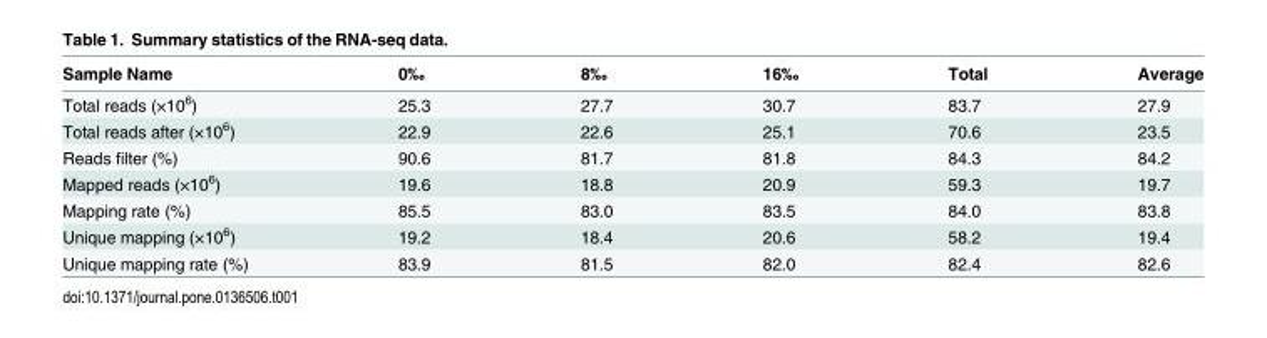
<table><thead><tr><td>Sample Name</td><td>0‰</td><td>8‰</td><td>16‰</td><td>Total</td><td>Average</td></tr></thead><tbody><tr><td>Total reads (×10<sup>6</sup>)</td><td>25.3</td><td>27.7</td><td>30.7</td><td>83.7</td><td>27.9</td></tr><tr><td>Total reads after (×10<sup>6</sup>)</td><td>22.9</td><td>22.6</td><td>25.1</td><td>70.6</td><td>23.5</td></tr><tr><td>Reads filter (%)</td><td>90.6</td><td>81.7</td><td>81.8</td><td>84.3</td><td>84.2</td></tr><tr><td>Mapped reads (×10<sup>6</sup>)</td><td>19.6</td><td>18.8</td><td>20.9</td><td>59.3</td><td>19.7</td></tr><tr><td>Mapping rate (%)</td><td>85.5</td><td>83.0</td><td>83.5</td><td>84.0</td><td>83.8</td></tr><tr><td>Unique mapping (×10<sup>6</sup>)</td><td>19.2</td><td>18.4</td><td>20.6</td><td>58.2</td><td>19.4</td></tr><tr><td>Unique mapping rate (%)</td><td>83.9</td><td>81.5</td><td>82.0</td><td>82.4</td><td>82.6</td></tr></tbody></table>